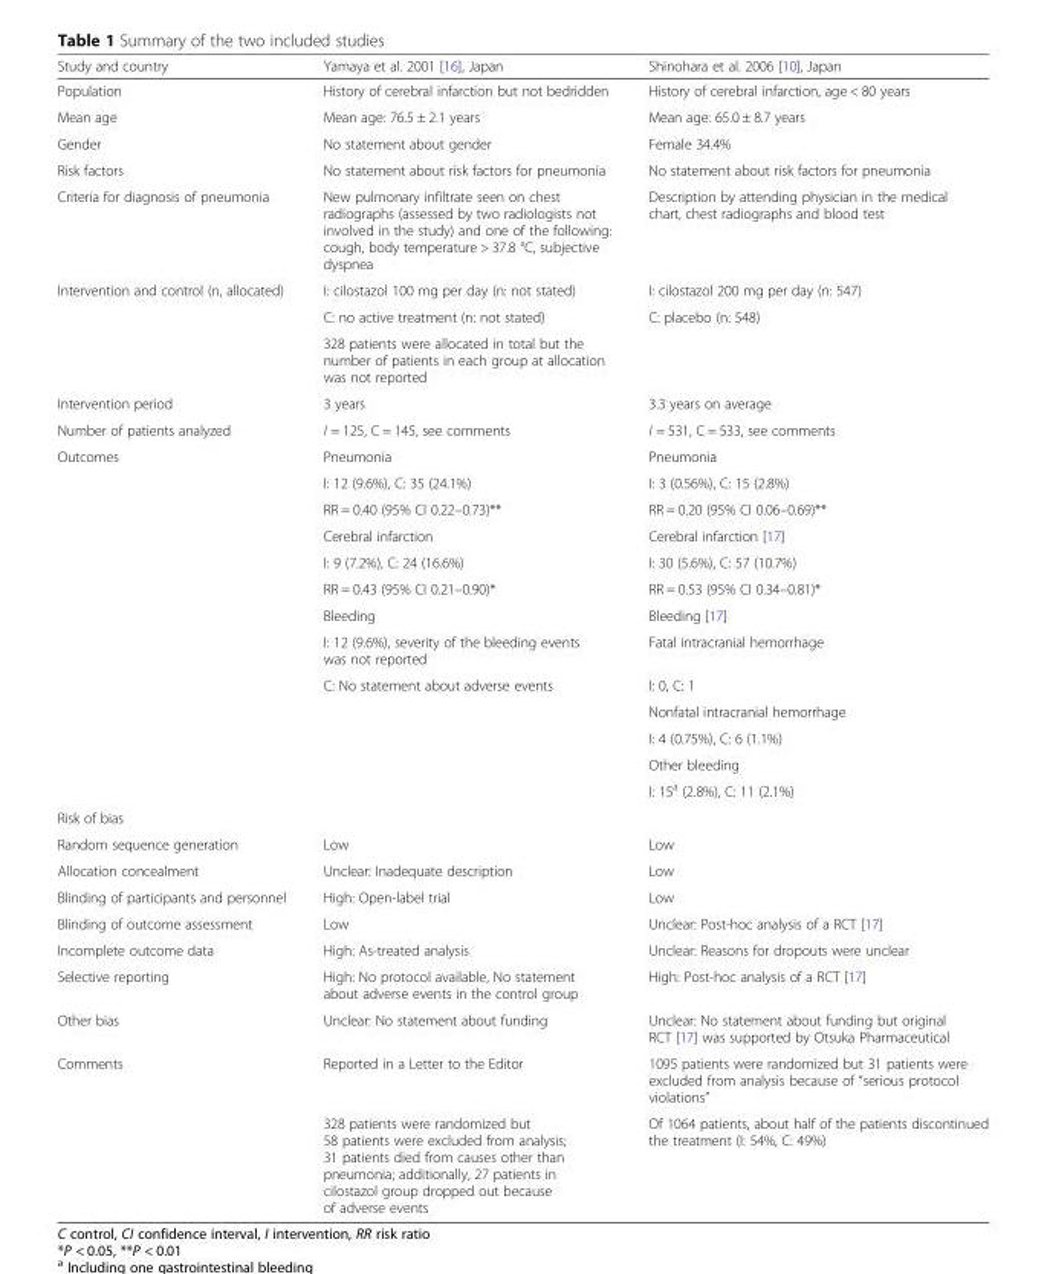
<table><thead><tr><td>Study and country</td><td>Yamaya et al. 2001 [16], Japan</td><td>Shinohara et al. 2006 [10], Japan</td></tr></thead><tbody><tr><td>Population</td><td>History of cerebral infarction but not bedridden</td><td>History of cerebral infarction, age &lt; 80 years</td></tr><tr><td>Mean age</td><td>Mean age: 76.5 ± 2.1 years</td><td>Mean age: 65.0 ± 8.7 years</td></tr><tr><td>Gender</td><td>No statement about gender</td><td>Female 34.4%</td></tr><tr><td>Risk factors</td><td>No statement about risk factors for pneumonia</td><td>No statement about risk factors for pneumonia</td></tr><tr><td>Criteria for diagnosis of pneumonia</td><td>New pulmonary infiltrate seen on chest radiographs (assessed by two radiologists not involved in the study) and one of the following: cough, body temperature &gt; 37.8 °C, subjective dyspnea</td><td>Description by attending physician in the medical chart, chest radiographs and blood test</td></tr><tr><td rowspan="3">Intervention and control (n, allocated)</td><td>I: cilostazol 100 mg per day (n: not stated)</td><td>I: cilostazol 200 mg per day (n: 547)</td></tr><tr><td>C: no active treatment (n: not stated)</td><td>C: placebo (n: 548)</td></tr><tr><td>328 patients were allocated in total but the number of patients in each group at allocation was not reported</td><td></td></tr><tr><td>Intervention period</td><td>3 years</td><td>3.3 years on average</td></tr><tr><td>Number of patients analyzed</td><td>I = 125, C = 145, see comments</td><td>I = 531, C = 533, see comments</td></tr><tr><td rowspan="13">Outcomes</td><td>Pneumonia</td><td>Pneumonia</td></tr><tr><td>I: 12 (9.6%), C: 35 (24.1%)</td><td>I: 3 (0.56%), C: 15 (2.8%)</td></tr><tr><td>RR = 0.40 (95% CI 0.22–0.73)**</td><td>RR = 0.20 (95% CI 0.06–0.69)**</td></tr><tr><td>Cerebral infarction</td><td>Cerebral infarction [17]</td></tr><tr><td>I: 9 (7.2%), C: 24 (16.6%)</td><td>I: 30 (5.6%), C: 57 (10.7%)</td></tr><tr><td>RR = 0.43 (95% CI 0.21–0.90)*</td><td>RR = 0.53 (95% CI 0.34–0.81)*</td></tr><tr><td>Bleeding</td><td>Bleeding [17]</td></tr><tr><td>I: 12 (9.6%), severity of the bleeding events was not reported</td><td>Fatal intracranial hemorrhage</td></tr><tr><td>C: No statement about adverse events</td><td>I: 0, C: 1</td></tr><tr><td></td><td>Nonfatal intracranial hemorrhage</td></tr><tr><td></td><td>I: 4 (0.75%), C: 6 (1.1%)</td></tr><tr><td></td><td>Other bleeding</td></tr><tr><td></td><td>I: 15<sup>a</sup> (2.8%), C: 11 (2.1%)</td></tr><tr><td colspan="3">Risk of bias</td></tr><tr><td>Random sequence generation</td><td>Low</td><td>Low</td></tr><tr><td>Allocation concealment</td><td>Unclear: Inadequate description</td><td>Low</td></tr><tr><td>Blinding of participants and personnel</td><td>High: Open-label trial</td><td>Low</td></tr><tr><td>Blinding of outcome assessment</td><td>Low</td><td>Unclear: Post-hoc analysis of a RCT [17]</td></tr><tr><td>Incomplete outcome data</td><td>High: As-treated analysis</td><td>Unclear: Reasons for dropouts were unclear</td></tr><tr><td>Selective reporting</td><td>High: No protocol available, No statement about adverse events in the control group</td><td>High: Post-hoc analysis of a RCT [17]</td></tr><tr><td>Other bias</td><td>Unclear: No statement about funding</td><td>Unclear: No statement about funding but original RCT [17] was supported by Otsuka Pharmaceutical</td></tr><tr><td rowspan="2">Comments</td><td>Reported in a Letter to the Editor</td><td>1095 patients were randomized but 31 patients were excluded from analysis because of “serious protocol violations”</td></tr><tr><td>328 patients were randomized but 58 patients were excluded from analysis; 31 patients died from causes other than pneumonia; additionally, 27 patients in cilostazol group dropped out because of adverse events</td><td>Of 1064 patients, about half of the patients discontinued the treatment (I: 54%, C: 49%)</td></tr></tbody></table>